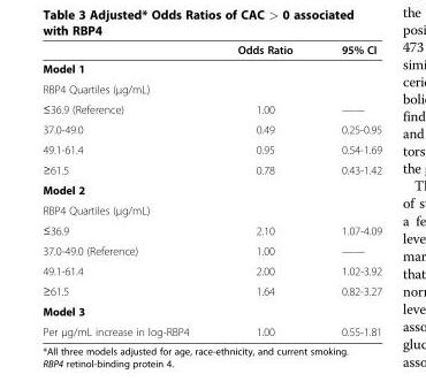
<table><thead><tr><td></td><td>Odds Ratio</td><td>95% CI</td></tr></thead><tbody><tr><td colspan="3">Model 1</td></tr><tr><td colspan="3">RBP4 Quartiles (μg/mL)</td></tr><tr><td>≤36.9 (Reference)</td><td>1.00</td><td>——</td></tr><tr><td>37.0-49.0</td><td>0.49</td><td>0.25-0.95</td></tr><tr><td>49.1-61.4</td><td>0.95</td><td>0.54-1.69</td></tr><tr><td>≥61.5</td><td>0.78</td><td>0.43-1.42</td></tr><tr><td colspan="3">Model 2</td></tr><tr><td colspan="3">RBP4 Quartiles (μg/mL)</td></tr><tr><td>≤36.9</td><td>2.10</td><td>1.07-4.09</td></tr><tr><td>37.0-49.0 (Reference)</td><td>1.00</td><td>——</td></tr><tr><td>49.1-61.4</td><td>2.00</td><td>1.02-3.92</td></tr><tr><td>≥61.5</td><td>1.64</td><td>0.82-3.27</td></tr><tr><td colspan="3">Model 3</td></tr><tr><td>Per μg/mL increase in log-RBP4</td><td>1.00</td><td>0.55-1.81</td></tr></tbody></table>